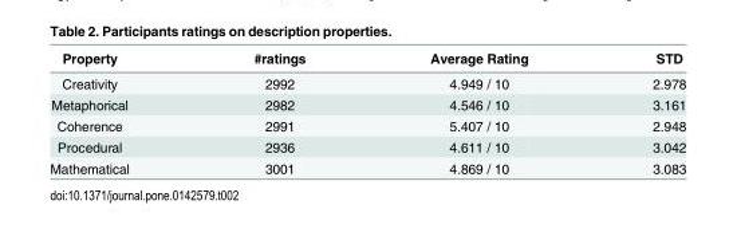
<table><thead><tr><td>Property</td><td>#ratings</td><td>Average Rating</td><td>STD</td></tr></thead><tbody><tr><td>Creativity</td><td>2992</td><td>4.949 / 10</td><td>2.978</td></tr><tr><td>Metaphorical</td><td>2982</td><td>4.546 / 10</td><td>3.161</td></tr><tr><td>Coherence</td><td>2991</td><td>5.407 / 10</td><td>2.948</td></tr><tr><td>Procedural</td><td>2936</td><td>4.611 / 10</td><td>3.042</td></tr><tr><td>Mathematical</td><td>3001</td><td>4.869 / 10</td><td>3.083</td></tr></tbody></table>